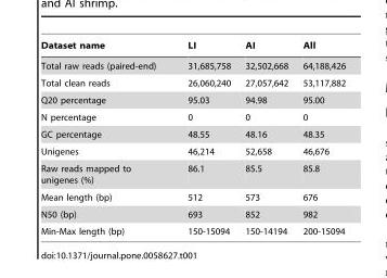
<table><thead><tr><td>Dataset name</td><td>LI</td><td>AI</td><td>All</td></tr></thead><tbody><tr><td>Total raw reads (paired-end)</td><td>31,685,758</td><td>32,502,668</td><td>64,188,426</td></tr><tr><td>Total clean reads</td><td>26,060,240</td><td>27,057,642</td><td>53,117,882</td></tr><tr><td>Q20 percentage</td><td>95.03</td><td>94.98</td><td>95.00</td></tr><tr><td>N percentage</td><td>0</td><td>0</td><td>0</td></tr><tr><td>GC percentage</td><td>48.55</td><td>48.16</td><td>48.35</td></tr><tr><td>Unigenes</td><td>46,214</td><td>52,658</td><td>46,676</td></tr><tr><td>Raw reads mapped to unigenes (%)</td><td>86.1</td><td>85.5</td><td>85.8</td></tr><tr><td>Mean length (bp)</td><td>512</td><td>573</td><td>676</td></tr><tr><td>N50 (bp)</td><td>693</td><td>852</td><td>982</td></tr><tr><td>Min-Max length (bp)</td><td>150-15094</td><td>150-14194</td><td>200-15094</td></tr></tbody></table>